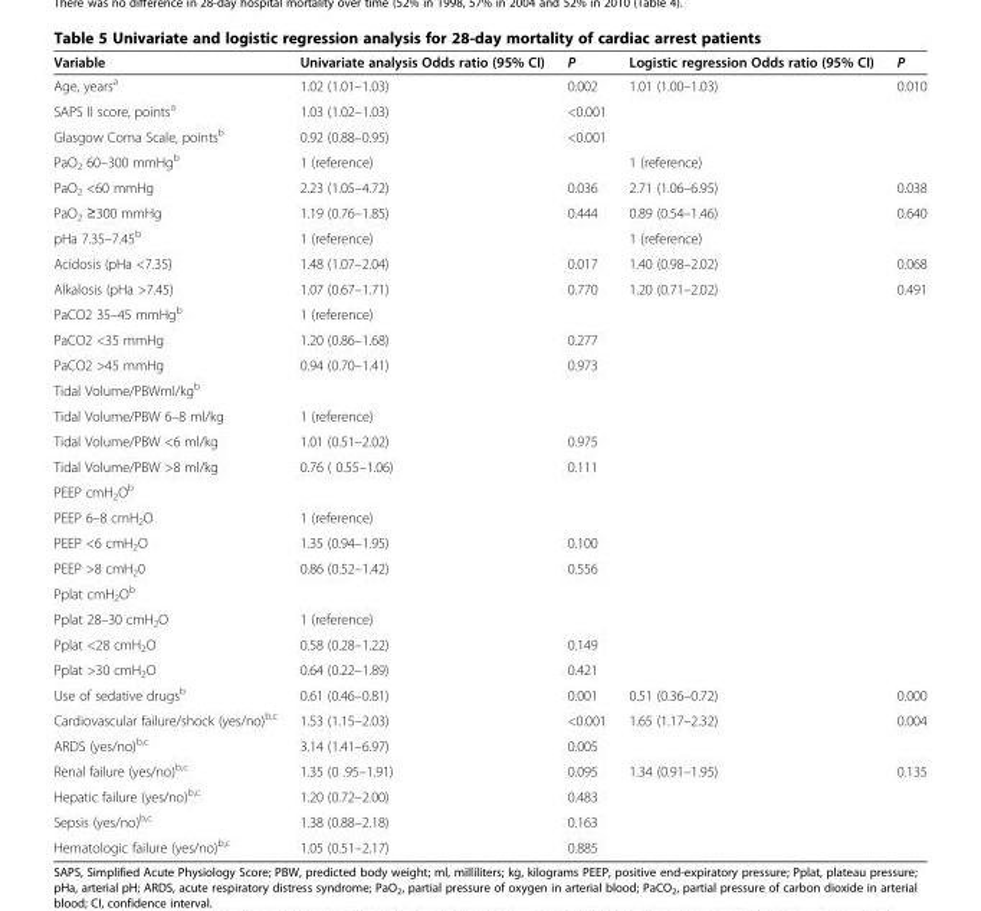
<table><thead><tr><td>Variable</td><td>Univariate analysis Odds ratio (95% CI)</td><td>P</td><td>Logistic regression Odds ratio (95% CI)</td><td>P</td></tr></thead><tbody><tr><td>Age, years<sup>a</sup></td><td>1.02 (1.01–1.03)</td><td>0.002</td><td>1.01 (1.00–1.03)</td><td>0.010</td></tr><tr><td>SAPS II score, points<sup>a</sup></td><td>1.03 (1.02–1.03)</td><td>&lt;0.001</td><td></td><td></td></tr><tr><td>Glasgow Coma Scale, points<sup>b</sup></td><td>0.92 (0.88–0.95)</td><td>&lt;0.001</td><td></td><td></td></tr><tr><td>PaO<sub>2</sub> 60–300 mmHg<sup>b</sup></td><td>1 (reference)</td><td></td><td>1 (reference)</td><td></td></tr><tr><td>PaO<sub>2</sub> &lt;60 mmHg</td><td>2.23 (1.05–4.72)</td><td>0.036</td><td>2.71 (1.06–6.95)</td><td>0.038</td></tr><tr><td>PaO<sub>2</sub> ≥300 mmHg</td><td>1.19 (0.76–1.85)</td><td>0.444</td><td>0.89 (0.54–1.46)</td><td>0.640</td></tr><tr><td>pHa 7.35–7.45<sup>b</sup></td><td>1 (reference)</td><td></td><td>1 (reference)</td><td></td></tr><tr><td>Acidosis (pHa &lt;7.35)</td><td>1.48 (1.07–2.04)</td><td>0.017</td><td>1.40 (0.98–2.02)</td><td>0.068</td></tr><tr><td>Alkalosis (pHa &gt;7.45)</td><td>1.07 (0.67–1.71)</td><td>0.770</td><td>1.20 (0.71–2.02)</td><td>0.491</td></tr><tr><td>PaCO2 35–45 mmHg<sup>b</sup></td><td>1 (reference)</td><td></td><td></td><td></td></tr><tr><td>PaCO2 &lt;35 mmHg</td><td>1.20 (0.86–1.68)</td><td>0.277</td><td></td><td></td></tr><tr><td>PaCO2 &gt;45 mmHg</td><td>0.94 (0.70–1.41)</td><td>0.973</td><td></td><td></td></tr><tr><td colspan="5">Tidal Volume/PBWml/kg<sup>b</sup></td></tr><tr><td>Tidal Volume/PBW 6–8 ml/kg</td><td>1 (reference)</td><td></td><td></td><td></td></tr><tr><td>Tidal Volume/PBW &lt;6 ml/kg</td><td>1.01 (0.51–2.02)</td><td>0.975</td><td></td><td></td></tr><tr><td>Tidal Volume/PBW &gt;8 ml/kg</td><td>0.76 ( 0.55–1.06)</td><td>0.111</td><td></td><td></td></tr><tr><td colspan="5">PEEP cmH<sub>2</sub>O<sup>b</sup></td></tr><tr><td>PEEP 6–8 cmH<sub>2</sub>O</td><td>1 (reference)</td><td></td><td></td><td></td></tr><tr><td>PEEP &lt;6 cmH<sub>2</sub>O</td><td>1.35 (0.94–1.95)</td><td>0.100</td><td></td><td></td></tr><tr><td>PEEP &gt;8 cmH<sub>2</sub>0</td><td>0.86 (0.52–1.42)</td><td>0.556</td><td></td><td></td></tr><tr><td colspan="5">Pplat cmH<sub>2</sub>O<sup>b</sup></td></tr><tr><td>Pplat 28–30 cmH<sub>2</sub>O</td><td>1 (reference)</td><td></td><td></td><td></td></tr><tr><td>Pplat &lt;28 cmH<sub>2</sub>O</td><td>0.58 (0.28–1.22)</td><td>0.149</td><td></td><td></td></tr><tr><td>Pplat &gt;30 cmH<sub>2</sub>O</td><td>0.64 (0.22–1.89)</td><td>0.421</td><td></td><td></td></tr><tr><td>Use of sedative drugs<sup>b</sup></td><td>0.61 (0.46–0.81)</td><td>0.001</td><td>0.51 (0.36–0.72)</td><td>0.000</td></tr><tr><td>Cardiovascular failure/shock (yes/no)<sup>b,c</sup></td><td>1.53 (1.15–2.03)</td><td>&lt;0.001</td><td>1.65 (1.17–2.32)</td><td>0.004</td></tr><tr><td>ARDS (yes/no)<sup>b,c</sup></td><td>3.14 (1.41–6.97)</td><td>0.005</td><td></td><td></td></tr><tr><td>Renal failure (yes/no)<sup>b,c</sup></td><td>1.35 (0 .95–1.91)</td><td>0.095</td><td>1.34 (0.91–1.95)</td><td>0.135</td></tr><tr><td>Hepatic failure (yes/no)<sup>b,c</sup></td><td>1.20 (0.72–2.00)</td><td>0.483</td><td></td><td></td></tr><tr><td>Sepsis (yes/no)<sup>b,c</sup></td><td>1.38 (0.88–2.18)</td><td>0.163</td><td></td><td></td></tr><tr><td>Hematologic failure (yes/no)<sup>b,c</sup></td><td>1.05 (0.51–2.17)</td><td>0.885</td><td></td><td></td></tr></tbody></table>